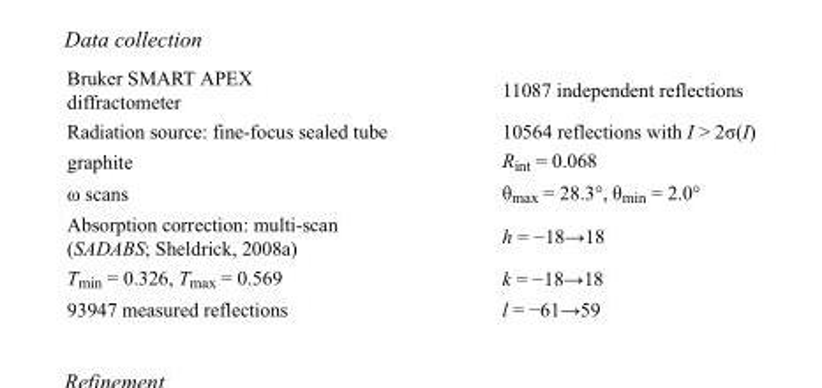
<table><tbody><tr><td>Bruker SMART APEX diffractometer</td><td>11087 independent reflections</td></tr><tr><td>Radiation source: fine-focus sealed tube</td><td>10564 reflections with I &gt; 2σ(I)</td></tr><tr><td>graphite</td><td>R<sub>int</sub> = 0.068</td></tr><tr><td>ω scans</td><td>θ<sub>max</sub> = 28.3°, θ<sub>min</sub> = 2.0°</td></tr><tr><td>Absorption correction: multi-scan (SADABS; Sheldrick, 2008a)</td><td>h = −18→18</td></tr><tr><td>T<sub>min</sub> = 0.326, T<sub>max</sub> = 0.569</td><td>k = −18→18</td></tr><tr><td>93947 measured reflections</td><td>l = −61→59</td></tr></tbody></table>